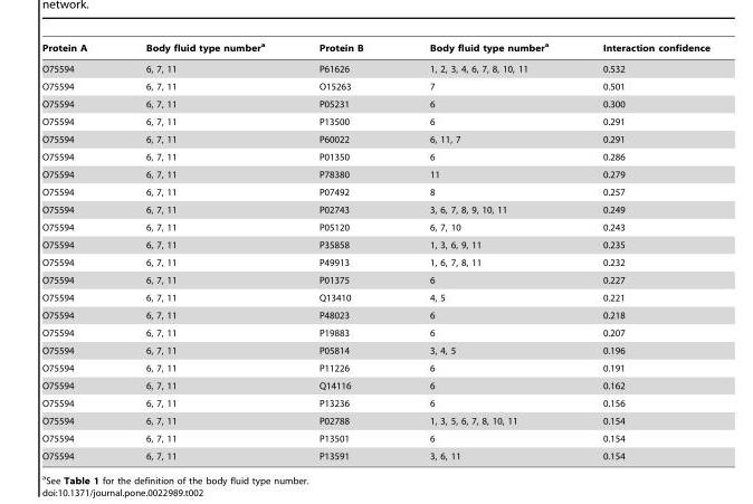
<table><thead><tr><td>Protein A</td><td>Body fluid type number<sup>a</sup></td><td>Protein B</td><td>Body fluid type number<sup>a</sup></td><td>Interaction confidence</td></tr></thead><tbody><tr><td>O75594</td><td>6, 7, 11</td><td>P61626</td><td>1, 2, 3, 4, 6, 7, 8, 10, 11</td><td>0.532</td></tr><tr><td>O75594</td><td>6, 7, 11</td><td>O15263</td><td>7</td><td>0.501</td></tr><tr><td>O75594</td><td>6, 7, 11</td><td>P05231</td><td>6</td><td>0.300</td></tr><tr><td>O75594</td><td>6, 7, 11</td><td>P13500</td><td>6</td><td>0.291</td></tr><tr><td>O75594</td><td>6, 7, 11</td><td>P60022</td><td>6, 11, 7</td><td>0.291</td></tr><tr><td>O75594</td><td>6, 7, 11</td><td>P01350</td><td>6</td><td>0.286</td></tr><tr><td>O75594</td><td>6, 7, 11</td><td>P78380</td><td>11</td><td>0.279</td></tr><tr><td>O75594</td><td>6, 7, 11</td><td>P07492</td><td>8</td><td>0.257</td></tr><tr><td>O75594</td><td>6, 7, 11</td><td>P02743</td><td>3, 6, 7, 8, 9, 10, 11</td><td>0.249</td></tr><tr><td>O75594</td><td>6, 7, 11</td><td>P05120</td><td>6, 7, 10</td><td>0.243</td></tr><tr><td>O75594</td><td>6, 7, 11</td><td>P35858</td><td>1, 3, 6, 9, 11</td><td>0.235</td></tr><tr><td>O75594</td><td>6, 7, 11</td><td>P49913</td><td>1, 6, 7, 8, 11</td><td>0.232</td></tr><tr><td>O75594</td><td>6, 7, 11</td><td>P01375</td><td>6</td><td>0.227</td></tr><tr><td>O75594</td><td>6, 7, 11</td><td>Q13410</td><td>4, 5</td><td>0.221</td></tr><tr><td>O75594</td><td>6, 7, 11</td><td>P48023</td><td>6</td><td>0.218</td></tr><tr><td>O75594</td><td>6, 7, 11</td><td>P19883</td><td>6</td><td>0.207</td></tr><tr><td>O75594</td><td>6, 7, 11</td><td>P05814</td><td>3, 4, 5</td><td>0.196</td></tr><tr><td>O75594</td><td>6, 7, 11</td><td>P11226</td><td>6</td><td>0.191</td></tr><tr><td>O75594</td><td>6, 7, 11</td><td>Q14116</td><td>6</td><td>0.162</td></tr><tr><td>O75594</td><td>6, 7, 11</td><td>P13236</td><td>6</td><td>0.156</td></tr><tr><td>O75594</td><td>6, 7, 11</td><td>P02788</td><td>1, 3, 5, 6, 7, 8, 10, 11</td><td>0.154</td></tr><tr><td>O75594</td><td>6, 7, 11</td><td>P13501</td><td>6</td><td>0.154</td></tr><tr><td>O75594</td><td>6, 7, 11</td><td>P13591</td><td>3, 6, 11</td><td>0.154</td></tr></tbody></table>